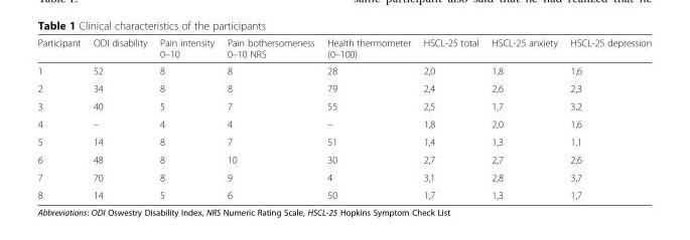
<table><thead><tr><td>Participant</td><td>ODI disability</td><td>Pain intensity 0–10</td><td>Pain bothersomeness 0–10 NRS</td><td>Health thermometer (0–100)</td><td>HSCL-25 total</td><td>HSCL-25 anxiety</td><td>HSCL-25 depression</td></tr></thead><tbody><tr><td>1</td><td>52</td><td>8</td><td>8</td><td>28</td><td>2,0</td><td>1,8</td><td>1,6</td></tr><tr><td>2</td><td>34</td><td>8</td><td>8</td><td>79</td><td>2,4</td><td>2,6</td><td>2,3</td></tr><tr><td>3</td><td>40</td><td>5</td><td>7</td><td>55</td><td>2,5</td><td>1,7</td><td>3,2</td></tr><tr><td>4</td><td>–</td><td>4</td><td>4</td><td>–</td><td>1,8</td><td>2,0</td><td>1,6</td></tr><tr><td>5</td><td>14</td><td>8</td><td>7</td><td>51</td><td>1,4</td><td>1,3</td><td>1,1</td></tr><tr><td>6</td><td>48</td><td>8</td><td>10</td><td>30</td><td>2,7</td><td>2,7</td><td>2,6</td></tr><tr><td>7</td><td>70</td><td>8</td><td>9</td><td>4</td><td>3,1</td><td>2,8</td><td>3,7</td></tr><tr><td>8</td><td>14</td><td>5</td><td>6</td><td>50</td><td>1,7</td><td>1,3</td><td>1,7</td></tr></tbody></table>